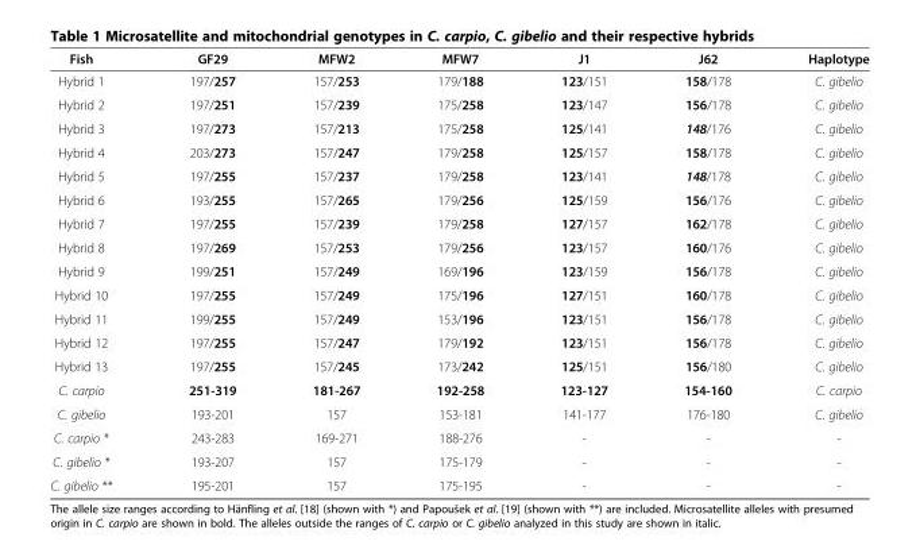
<table><thead><tr><td>Fish</td><td>GF29</td><td>MFW2</td><td>MFW7</td><td>J1</td><td>J62</td><td>Haplotype</td></tr></thead><tbody><tr><td>Hybrid 1</td><td>197/257</td><td>157/253</td><td>179/188</td><td>123/151</td><td>158/178</td><td>C. gibelio</td></tr><tr><td>Hybrid 2</td><td>197/251</td><td>157/239</td><td>175/258</td><td>123/147</td><td>156/178</td><td>C. gibelio</td></tr><tr><td>Hybrid 3</td><td>197/273</td><td>157/213</td><td>175/258</td><td>125/141</td><td>148/176</td><td>C. gibelio</td></tr><tr><td>Hybrid 4</td><td>203/273</td><td>157/247</td><td>179/258</td><td>125/157</td><td>158/178</td><td>C. gibelio</td></tr><tr><td>Hybrid 5</td><td>197/255</td><td>157/237</td><td>179/258</td><td>123/141</td><td>148/178</td><td>C. gibelio</td></tr><tr><td>Hybrid 6</td><td>193/255</td><td>157/265</td><td>179/256</td><td>125/159</td><td>156/176</td><td>C. gibelio</td></tr><tr><td>Hybrid 7</td><td>197/255</td><td>157/239</td><td>179/258</td><td>127/157</td><td>162/178</td><td>C. gibelio</td></tr><tr><td>Hybrid 8</td><td>197/269</td><td>157/253</td><td>179/256</td><td>123/157</td><td>160/176</td><td>C. gibelio</td></tr><tr><td>Hybrid 9</td><td>199/251</td><td>157/249</td><td>169/196</td><td>123/159</td><td>156/178</td><td>C. gibelio</td></tr><tr><td>Hybrid 10</td><td>197/255</td><td>157/249</td><td>175/196</td><td>127/151</td><td>160/178</td><td>C. gibelio</td></tr><tr><td>Hybrid 11</td><td>199/255</td><td>157/249</td><td>153/196</td><td>123/151</td><td>156/178</td><td>C. gibelio</td></tr><tr><td>Hybrid 12</td><td>197/255</td><td>157/247</td><td>179/192</td><td>123/151</td><td>156/178</td><td>C. gibelio</td></tr><tr><td>Hybrid 13</td><td>197/255</td><td>157/245</td><td>173/242</td><td>125/151</td><td>156/180</td><td>C. gibelio</td></tr><tr><td>C. carpio</td><td>251-319</td><td>181-267</td><td>192-258</td><td>123-127</td><td>154-160</td><td>C. carpio</td></tr><tr><td>C. gibelio</td><td>193-201</td><td>157</td><td>153-181</td><td>141-177</td><td>176-180</td><td>C. gibelio</td></tr><tr><td>C. carpio *</td><td>243-283</td><td>169-271</td><td>188-276</td><td>-</td><td>-</td><td>-</td></tr><tr><td>C. gibelio *</td><td>193-207</td><td>157</td><td>175-179</td><td>-</td><td>-</td><td>-</td></tr><tr><td>C. gibelio **</td><td>195-201</td><td>157</td><td>175-195</td><td>-</td><td>-</td><td>-</td></tr></tbody></table>